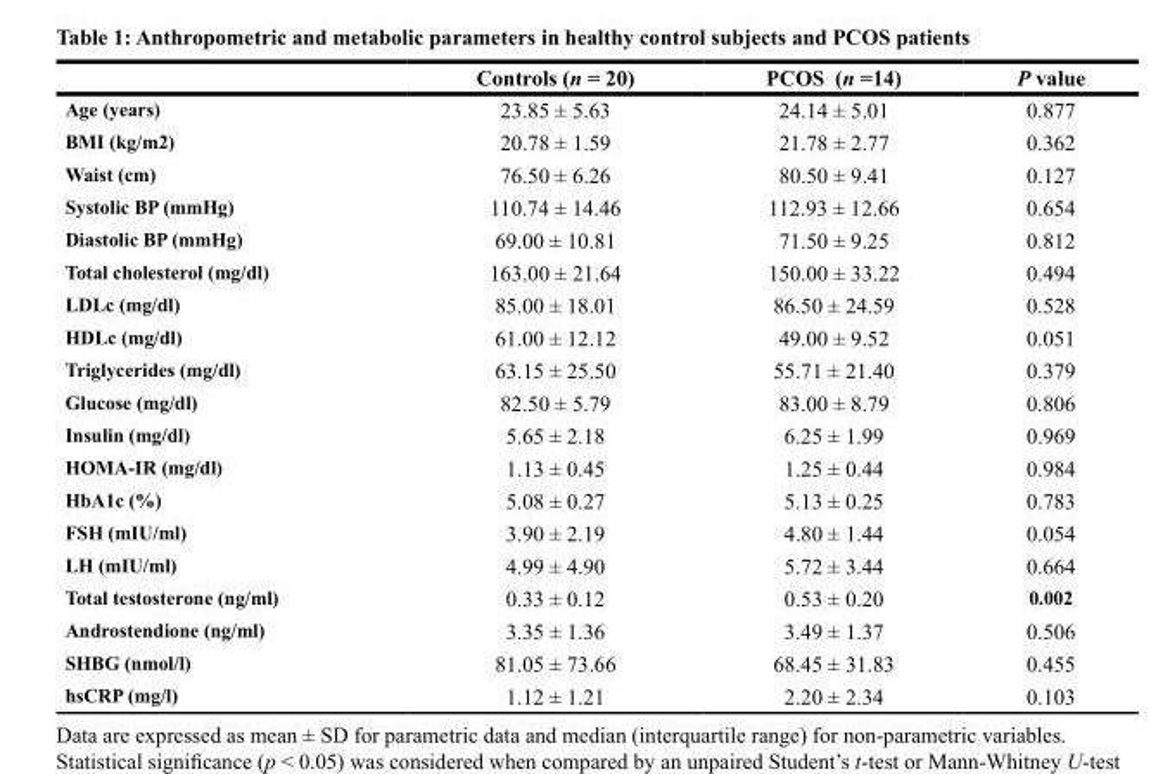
<table><thead><tr><td></td><td>Controls (n = 20)</td><td>PCOS (n =14)</td><td>P value</td></tr></thead><tbody><tr><td>Age (years)</td><td>23.85 ± 5.63</td><td>24.14 ± 5.01</td><td>0.877</td></tr><tr><td>BMI (kg/m2)</td><td>20.78 ± 1.59</td><td>21.78 ± 2.77</td><td>0.362</td></tr><tr><td>Waist (cm)</td><td>76.50 ± 6.26</td><td>80.50 ± 9.41</td><td>0.127</td></tr><tr><td>Systolic BP (mmHg)</td><td>110.74 ± 14.46</td><td>112.93 ± 12.66</td><td>0.654</td></tr><tr><td>Diastolic BP (mmHg)</td><td>69.00 ± 10.81</td><td>71.50 ± 9.25</td><td>0.812</td></tr><tr><td>Total cholesterol (mg/dl)</td><td>163.00 ± 21.64</td><td>150.00 ± 33.22</td><td>0.494</td></tr><tr><td>LDLc (mg/dl)</td><td>85.00 ± 18.01</td><td>86.50 ± 24.59</td><td>0.528</td></tr><tr><td>HDLc (mg/dl)</td><td>61.00 ± 12.12</td><td>49.00 ± 9.52</td><td>0.051</td></tr><tr><td>Triglycerides (mg/dl)</td><td>63.15 ± 25.50</td><td>55.71 ± 21.40</td><td>0.379</td></tr><tr><td>Glucose (mg/dl)</td><td>82.50 ± 5.79</td><td>83.00 ± 8.79</td><td>0.806</td></tr><tr><td>Insulin (mg/dl)</td><td>5.65 ± 2.18</td><td>6.25 ± 1.99</td><td>0.969</td></tr><tr><td>HOMA-IR (mg/dl)</td><td>1.13 ± 0.45</td><td>1.25 ± 0.44</td><td>0.984</td></tr><tr><td>HbA1c (%)</td><td>5.08 ± 0.27</td><td>5.13 ± 0.25</td><td>0.783</td></tr><tr><td>FSH (mIU/ml)</td><td>3.90 ± 2.19</td><td>4.80 ± 1.44</td><td>0.054</td></tr><tr><td>LH (mIU/ml)</td><td>4.99 ± 4.90</td><td>5.72 ± 3.44</td><td>0.664</td></tr><tr><td>Total testosterone (ng/ml)</td><td>0.33 ± 0.12</td><td>0.53 ± 0.20</td><td>0.002</td></tr><tr><td>Androstendione (ng/ml)</td><td>3.35 ± 1.36</td><td>3.49 ± 1.37</td><td>0.506</td></tr><tr><td>SHBG (nmol/l)</td><td>81.05 ± 73.66</td><td>68.45 ± 31.83</td><td>0.455</td></tr><tr><td>hsCRP (mg/l)</td><td>1.12 ± 1.21</td><td>2.20 ± 2.34</td><td>0.103</td></tr></tbody></table>